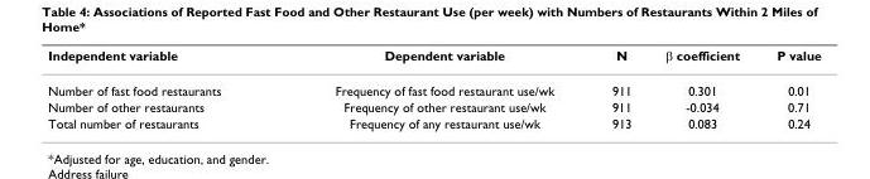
<table><thead><tr><td>Independent variable</td><td>Dependent variable</td><td>N</td><td>β coefficient</td><td>P value</td></tr></thead><tbody><tr><td>Number of fast food restaurants</td><td>Frequency of fast food restaurant use/wk</td><td>911</td><td>0.301</td><td>0.01</td></tr><tr><td>Number of other restaurants</td><td>Frequency of other restaurant use/wk</td><td>911</td><td>-0.034</td><td>0.71</td></tr><tr><td>Total number of restaurants</td><td>Frequency of any restaurant use/wk</td><td>913</td><td>0.083</td><td>0.24</td></tr></tbody></table>